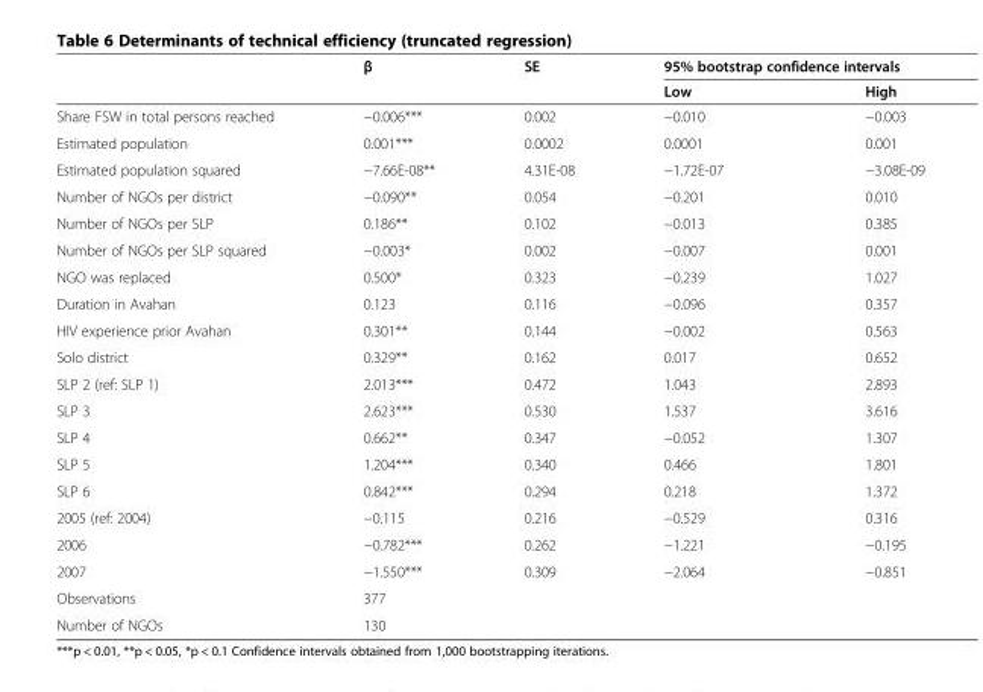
<table><thead><tr><td rowspan="2"></td><td rowspan="2">β</td><td rowspan="2">SE</td><td colspan="2">95% bootstrap confidence intervals</td></tr><tr><td>Low</td><td>High</td></tr></thead><tbody><tr><td>Share FSW in total persons reached</td><td>−0.006***</td><td>0.002</td><td>−0.010</td><td>−0.003</td></tr><tr><td>Estimated population</td><td>0.001***</td><td>0.0002</td><td>0.0001</td><td>0.001</td></tr><tr><td>Estimated population squared</td><td>−7.66E-08**</td><td>4.31E-08</td><td>−1.72E-07</td><td>−3.08E-09</td></tr><tr><td>Number of NGOs per district</td><td>−0.090**</td><td>0.054</td><td>−0.201</td><td>0.010</td></tr><tr><td>Number of NGOs per SLP</td><td>0.186**</td><td>0.102</td><td>−0.013</td><td>0.385</td></tr><tr><td>Number of NGOs per SLP squared</td><td>−0.003*</td><td>0.002</td><td>−0.007</td><td>0.001</td></tr><tr><td>NGO was replaced</td><td>0.500*</td><td>0.323</td><td>−0.239</td><td>1.027</td></tr><tr><td>Duration in Avahan</td><td>0.123</td><td>0.116</td><td>−0.096</td><td>0.357</td></tr><tr><td>HIV experience prior Avahan</td><td>0.301**</td><td>0.144</td><td>−0.002</td><td>0.563</td></tr><tr><td>Solo district</td><td>0.329**</td><td>0.162</td><td>0.017</td><td>0.652</td></tr><tr><td>SLP 2 (ref: SLP 1)</td><td>2.013***</td><td>0.472</td><td>1.043</td><td>2.893</td></tr><tr><td>SLP 3</td><td>2.623***</td><td>0.530</td><td>1.537</td><td>3.616</td></tr><tr><td>SLP 4</td><td>0.662**</td><td>0.347</td><td>−0.052</td><td>1.307</td></tr><tr><td>SLP 5</td><td>1.204***</td><td>0.340</td><td>0.466</td><td>1.801</td></tr><tr><td>SLP 6</td><td>0.842***</td><td>0.294</td><td>0.218</td><td>1.372</td></tr><tr><td>2005 (ref: 2004)</td><td>−0.115</td><td>0.216</td><td>−0.529</td><td>0.316</td></tr><tr><td>2006</td><td>−0.782***</td><td>0.262</td><td>−1.221</td><td>−0.195</td></tr><tr><td>2007</td><td>−1.550***</td><td>0.309</td><td>−2.064</td><td>−0.851</td></tr><tr><td>Observations</td><td>377</td><td></td><td></td><td></td></tr><tr><td>Number of NGOs</td><td>130</td><td></td><td></td><td></td></tr></tbody></table>